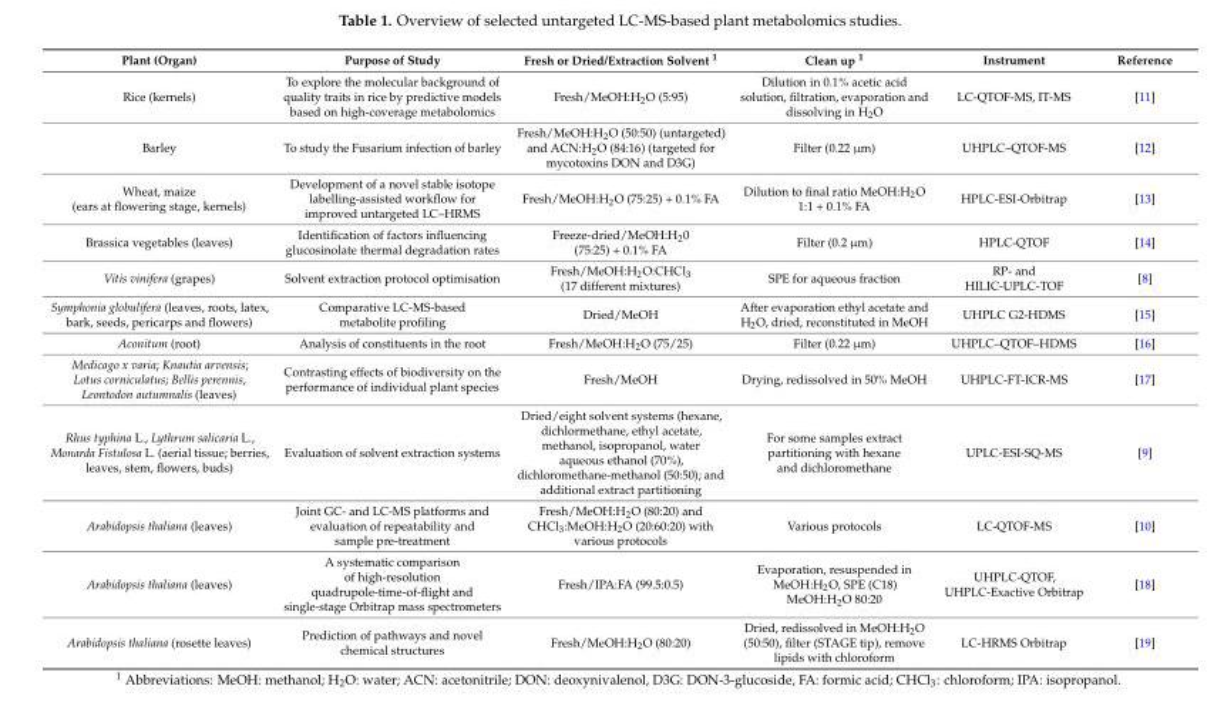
<table><thead><tr><td>Plant (Organ)</td><td>Purpose of Study</td><td>Fresh or Dried/Extraction Solvent <sup>1</sup></td><td>Clean up <sup>1</sup></td><td>Instrument</td><td>Reference</td></tr></thead><tbody><tr><td>Rice (kernels)</td><td>To explore the molecular background of quality traits in rice by predictive models based on high-coverage metabolomics</td><td>Fresh/MeOH:H<sub>2</sub>O (5:95)</td><td>Dilution in 0.1% acetic acid solution, filtration, evaporation and dissolving in H<sub>2</sub>O</td><td>LC-QTOF-MS, IT-MS</td><td>[11]</td></tr><tr><td>Barley</td><td>To study the Fusarium infection of barley</td><td>Fresh/MeOH:H<sub>2</sub>O (50:50) (untargeted) and ACN:H<sub>2</sub>O (84:16) (targeted for mycotoxins DON and D3G)</td><td>Filter (0.22 µm)</td><td>UHPLC–QTOF-MS</td><td>[12]</td></tr><tr><td>Wheat, maize (ears at flowering stage, kernels)</td><td>Development of a novel stable isotope labelling-assisted workflow for improved untargeted LC–HRMS</td><td>Fresh/MeOH:H<sub>2</sub>O (75:25) + 0.1% FA</td><td>Dilution to final ratio MeOH:H<sub>2</sub>O 1:1 + 0.1% FA</td><td>HPLC-ESI-Orbitrap</td><td>[13]</td></tr><tr><td>Brassica vegetables (leaves)</td><td>Identification of factors influencing glucosinolate thermal degradation rates</td><td>Freeze-dried/MeOH:H<sub>2</sub>0 (75:25) + 0.1% FA</td><td>Filter (0.2 µm)</td><td>HPLC-QTOF</td><td>[14]</td></tr><tr><td>Vitis vinifera (grapes)</td><td>Solvent extraction protocol optimisation</td><td>Fresh/MeOH:H<sub>2</sub>O:CHCl<sub>3</sub> (17 different mixtures)</td><td>SPE for aqueous fraction</td><td>RP- and HILIC-UPLC-TOF</td><td>[8]</td></tr><tr><td>Symphonia globulifera (leaves, roots, latex, bark, seeds, pericarps and flowers)</td><td>Comparative LC-MS-based metabolite profiling</td><td>Dried/MeOH</td><td>After evaporation ethyl acetate and H<sub>2</sub>O, dried, reconstituted in MeOH</td><td>UHPLC G2-HDMS</td><td>[15]</td></tr><tr><td>Aconitum (root)</td><td>Analysis of constituents in the root</td><td>Fresh/MeOH:H<sub>2</sub>O (75/25)</td><td>Filter (0.22 µm)</td><td>UHPLC–QTOF–HDMS</td><td>[16]</td></tr><tr><td>Medicago x varia; Knautia arvensis; Lotus corniculatus; Bellis perennis, Leontodon autumnalis (leaves)</td><td>Contrasting effects of biodiversity on the performance of individual plant species</td><td>Fresh/MeOH</td><td>Drying, redissolved in 50% MeOH</td><td>UHPLC-FT-ICR-MS</td><td>[17]</td></tr><tr><td>Rhus typhina L., Lythrum salicaria L., Monarda Fistulosa L. (aerial tissue; berries, leaves, stem, flowers, buds)</td><td>Evaluation of solvent extraction systems</td><td>Dried/eight solvent systems (hexane, dichlormethane, ethyl acetate, methanol, isopropanol, water aqueous ethanol (70%), dichloromethane-methanol (50:50); and additional extract partitioning</td><td>For some samples extract partitioning with hexane and dichloromethane</td><td>UPLC-ESI-SQ-MS</td><td>[9]</td></tr><tr><td>Arabidopsis thaliana (leaves)</td><td>Joint GC- and LC-MS platforms and evaluation of repeatability and sample pre-treatment</td><td>Fresh/MeOH:H<sub>2</sub>O (80:20) and CHCl<sub>3</sub>:MeOH:H<sub>2</sub>O (20:60:20) with various protocols</td><td>Various protocols</td><td>LC-QTOF-MS</td><td>[10]</td></tr><tr><td>Arabidopsis thaliana (leaves)</td><td>A systematic comparison of high-resolution quadrupole-time-of-flight and single-stage Orbitrap mass spectrometers</td><td>Fresh/IPA:FA (99.5:0.5)</td><td>Evaporation, resuspended in MeOH:H<sub>2</sub>O, SPE (C18) MeOH:H<sub>2</sub>O 80:20</td><td>UHPLC-QTOF, UHPLC-Exactive Orbitrap</td><td>[18]</td></tr><tr><td>Arabidopsis thaliana (rosette leaves)</td><td>Prediction of pathways and novel chemical structures</td><td>Fresh/MeOH:H<sub>2</sub>O (80:20)</td><td>Dried, redissolved in MeOH:H<sub>2</sub>O (50:50), filter (STAGE tip), remove lipids with chloroform</td><td>LC-HRMS Orbitrap</td><td>[19]</td></tr></tbody></table>